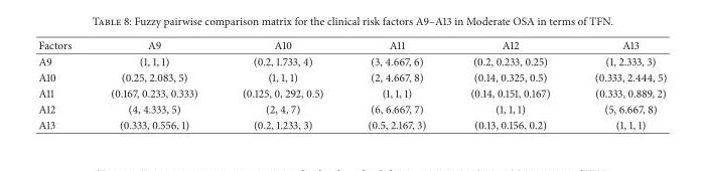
<table><thead><tr><td>Factors</td><td>A9</td><td>A10</td><td>A11</td><td>A12</td><td>A13</td></tr></thead><tbody><tr><td>A9</td><td>(1, 1, 1)</td><td>(0.2, 1.733, 4)</td><td>(3, 4.667, 6)</td><td>(0.2, 0.233, 0.25)</td><td>(1, 2.333, 3)</td></tr><tr><td>A10</td><td>(0.25, 2.083, 5)</td><td>(1, 1, 1)</td><td>(2, 4.667, 8)</td><td>(0.14, 0.325, 0.5)</td><td>(0.333, 2.444, 5)</td></tr><tr><td>A11</td><td>(0.167, 0.233, 0.333)</td><td>(0.125, 0, 292, 0.5)</td><td>(1, 1, 1)</td><td>(0.14, 0.151, 0.167)</td><td>(0.333, 0.889, 2)</td></tr><tr><td>A12</td><td>(4, 4.333, 5)</td><td>(2, 4, 7)</td><td>(6, 6.667, 7)</td><td>(1, 1, 1)</td><td>(5, 6.667, 8)</td></tr><tr><td>A13</td><td>(0.333, 0.556, 1)</td><td>(0.2, 1.233, 3)</td><td>(0.5, 2.167, 3)</td><td>(0.13, 0.156, 0.2)</td><td>(1, 1, 1)</td></tr></tbody></table>